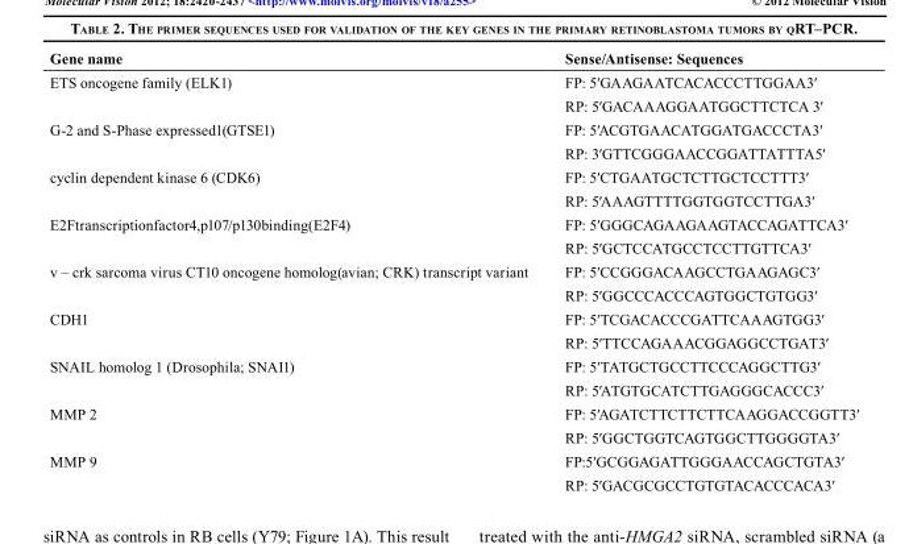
<table><thead><tr><td>Gene name</td><td>Sense/Antisense: Sequences</td></tr></thead><tbody><tr><td rowspan="2">ETS oncogene family (ELK1)</td><td>FP: 5′GAAGAATCACACCCTTGGAA3′</td></tr><tr><td>RP: 5′GACAAAGGAATGGCTTCTCA 3′</td></tr><tr><td rowspan="2">G-2 and S-Phase expressed1(GTSE1)</td><td>FP: 5′ACGTGAACATGGATGACCCTA3′</td></tr><tr><td>RP: 3′GTTCGGGAACCGGATTATTTA5′</td></tr><tr><td rowspan="2">cyclin dependent kinase 6 (CDK6)</td><td>FP: 5′CTGAATGCTCTTGCTCCTTT3′</td></tr><tr><td>RP: 5′AAAGTTTTGGTGGTCCTTGA3′</td></tr><tr><td rowspan="2">E2Ftranscriptionfactor4,p107/p130binding(E2F4)</td><td>FP: 5′GGGCAGAAGAAGTACCAGATTCA3′</td></tr><tr><td>RP: 5′GCTCCATGCCTCCTTGTTCA3′</td></tr><tr><td rowspan="2">v – crk sarcoma virus CT10 oncogene homolog(avian; CRK) transcript variant</td><td>FP: 5′CCGGGACAAGCCTGAAGAGC3′</td></tr><tr><td>RP: 5′GGCCCACCCAGTGGCTGTGG3′</td></tr><tr><td rowspan="2">CDH1</td><td>FP: 5′TCGACACCCGATTCAAAGTGG3′</td></tr><tr><td>RP: 5′TTCCAGAAACGGAGGCCTGAT3′</td></tr><tr><td rowspan="2">SNAIL homolog 1 (Drosophila; SNAI1)</td><td>FP: 5′TATGCTGCCTTCCCAGGCTTG3′</td></tr><tr><td>RP: 5′ATGTGCATCTTGAGGGCACCC3′</td></tr><tr><td rowspan="2">MMP 2</td><td>FP: 5′AGATCTTCTTCTTCAAGGACCGGTT3′</td></tr><tr><td>RP: 5′GGCTGGTCAGTGGCTTGGGGTA3′</td></tr><tr><td rowspan="2">MMP 9</td><td>FP:5′GCGGAGATTGGGAACCAGCTGTA3′</td></tr><tr><td>RP: 5′GACGCGCCTGTGTACACCCACA3′</td></tr></tbody></table>